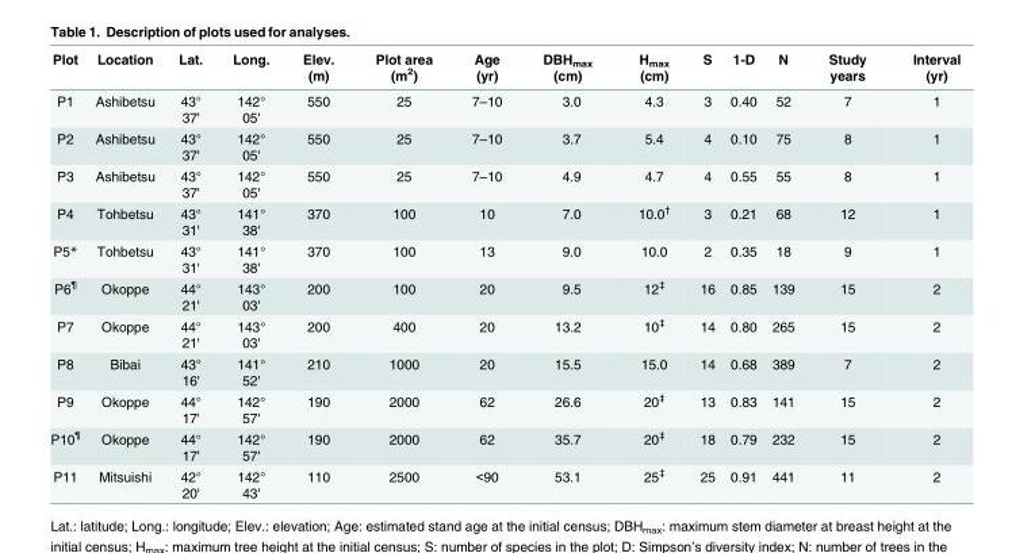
<table><thead><tr><td>Plot</td><td>Location</td><td>Lat.</td><td>Long.</td><td>Elev. (m)</td><td>Plot area (m<sup>2</sup>)</td><td>Age (yr)</td><td>DBH<sub>max</sub> (cm)</td><td>H<sub>max</sub> (cm)</td><td>S</td><td>1-D</td><td>N</td><td>Study years</td><td>Interval (yr)</td></tr></thead><tbody><tr><td>P1</td><td>Ashibetsu</td><td>43° 37&#x27;</td><td>142° 05&#x27;</td><td>550</td><td>25</td><td>7–10</td><td>3.0</td><td>4.3</td><td>3</td><td>0.40</td><td>52</td><td>7</td><td>1</td></tr><tr><td>P2</td><td>Ashibetsu</td><td>43° 37&#x27;</td><td>142° 05&#x27;</td><td>550</td><td>25</td><td>7–10</td><td>3.7</td><td>5.4</td><td>4</td><td>0.10</td><td>75</td><td>8</td><td>1</td></tr><tr><td>P3</td><td>Ashibetsu</td><td>43° 37&#x27;</td><td>142° 05&#x27;</td><td>550</td><td>25</td><td>7–10</td><td>4.9</td><td>4.7</td><td>4</td><td>0.55</td><td>55</td><td>8</td><td>1</td></tr><tr><td>P4</td><td>Tohbetsu</td><td>43° 31&#x27;</td><td>141° 38&#x27;</td><td>370</td><td>100</td><td>10</td><td>7.0</td><td>10.0<sup>†</sup></td><td>3</td><td>0.21</td><td>68</td><td>12</td><td>1</td></tr><tr><td>P5*</td><td>Tohbetsu</td><td>43° 31&#x27;</td><td>141° 38&#x27;</td><td>370</td><td>100</td><td>13</td><td>9.0</td><td>10.0</td><td>2</td><td>0.35</td><td>18</td><td>9</td><td>1</td></tr><tr><td>P6<sup>¶</sup></td><td>Okoppe</td><td>44° 21&#x27;</td><td>143° 03&#x27;</td><td>200</td><td>100</td><td>20</td><td>9.5</td><td>12<sup>‡</sup></td><td>16</td><td>0.85</td><td>139</td><td>15</td><td>2</td></tr><tr><td>P7</td><td>Okoppe</td><td>44° 21&#x27;</td><td>143° 03&#x27;</td><td>200</td><td>400</td><td>20</td><td>13.2</td><td>10<sup>‡</sup></td><td>14</td><td>0.80</td><td>265</td><td>15</td><td>2</td></tr><tr><td>P8</td><td>Bibai</td><td>43° 16&#x27;</td><td>141° 52&#x27;</td><td>210</td><td>1000</td><td>20</td><td>15.5</td><td>15.0</td><td>14</td><td>0.68</td><td>389</td><td>7</td><td>2</td></tr><tr><td>P9</td><td>Okoppe</td><td>44° 17&#x27;</td><td>142° 57&#x27;</td><td>190</td><td>2000</td><td>62</td><td>26.6</td><td>20<sup>‡</sup></td><td>13</td><td>0.83</td><td>141</td><td>15</td><td>2</td></tr><tr><td>P10<sup>¶</sup></td><td>Okoppe</td><td>44° 17&#x27;</td><td>142° 57&#x27;</td><td>190</td><td>2000</td><td>62</td><td>35.7</td><td>20<sup>‡</sup></td><td>18</td><td>0.79</td><td>232</td><td>15</td><td>2</td></tr><tr><td>P11</td><td>Mitsuishi</td><td>42° 20&#x27;</td><td>142° 43&#x27;</td><td>110</td><td>2500</td><td>&lt;90</td><td>53.1</td><td>25<sup>‡</sup></td><td>25</td><td>0.91</td><td>441</td><td>11</td><td>2</td></tr></tbody></table>